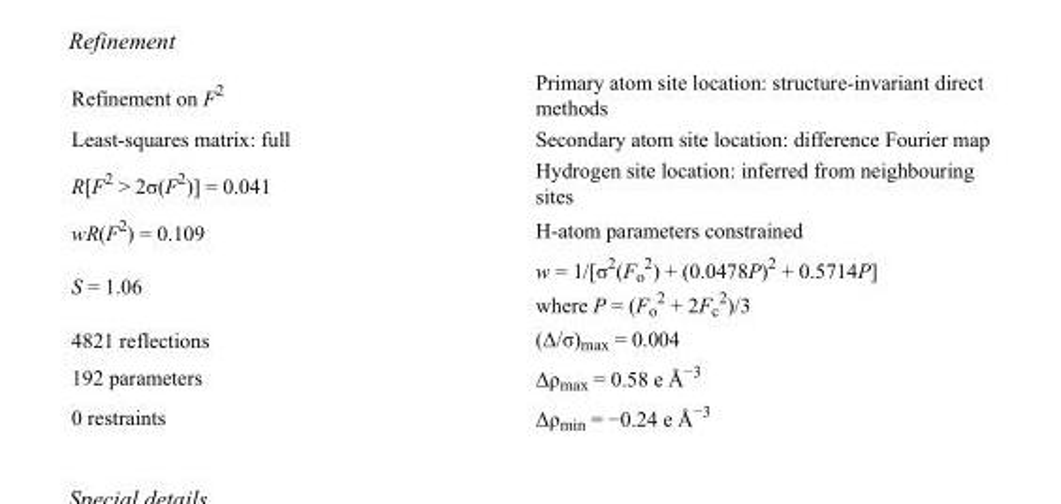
<table><tbody><tr><td>Refinement on F<sup>2</sup></td><td>Primary atom site location: structure-invariant direct methods</td></tr><tr><td>Least-squares matrix: full</td><td>Secondary atom site location: difference Fourier map</td></tr><tr><td>R[F<sup>2</sup> &gt; 2σ(F<sup>2</sup>)] = 0.041</td><td>Hydrogen site location: inferred from neighbouring sites</td></tr><tr><td>wR(F<sup>2</sup>) = 0.109</td><td>H-atom parameters constrained</td></tr><tr><td>S = 1.06</td><td>w = 1/[σ<sup>2</sup>(F<sub>o</sub> <sup>2</sup>) + (0.0478P)<sup>2</sup> + 0.5714P] where P = (F<sub>o</sub> <sup>2</sup> + 2F<sub>c</sub> <sup>2</sup>)/3</td></tr><tr><td>4821 reflections</td><td>(Δ/σ)<sub>max</sub> = 0.004</td></tr><tr><td>192 parameters</td><td>Δρ<sub>max</sub> = 0.58 e Å<sup>−3</sup></td></tr><tr><td>0 restraints</td><td>Δρ<sub>min</sub> = −0.24 e Å<sup>−3</sup></td></tr></tbody></table>